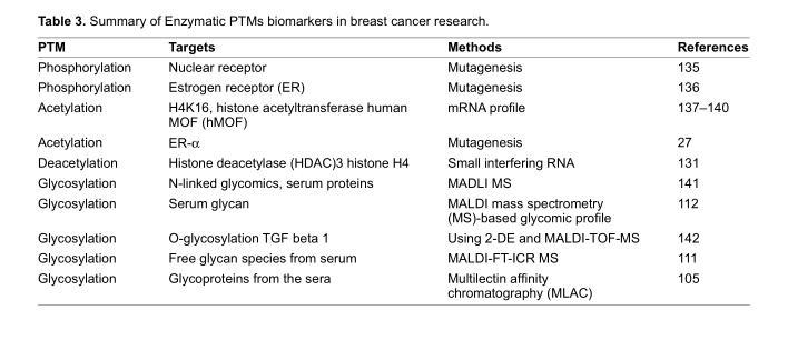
<table><thead><tr><td>PTM</td><td>Targets</td><td>Methods</td><td>References</td></tr></thead><tbody><tr><td>Phosphorylation</td><td>Nuclear receptor</td><td>Mutagenesis</td><td>135</td></tr><tr><td>Phosphorylation</td><td>estrogen receptor (eR)</td><td>Mutagenesis</td><td>136</td></tr><tr><td>Acetylation</td><td>H4K16, histone acetyltransferase human MOF (hMOF)</td><td>mRNA profile</td><td>137–140</td></tr><tr><td>Acetylation</td><td>eR-α</td><td>Mutagenesis</td><td>27</td></tr><tr><td>Deacetylation</td><td>Histone deacetylase (HDAC)3 histone H4</td><td>Small interfering RNA</td><td>131</td></tr><tr><td>Glycosylation</td><td>N-linked glycomics, serum proteins</td><td>MADLI MS</td><td>141</td></tr><tr><td>Glycosylation</td><td>Serum glycan</td><td>MALDI mass spectrometry (MS)-based glycomic profile</td><td>112</td></tr><tr><td>Glycosylation</td><td>O-glycosylation TGF beta 1</td><td>Using 2-De and MALDI-TOF-MS</td><td>142</td></tr><tr><td>Glycosylation</td><td>Free glycan species from serum</td><td>MALDI-FT-ICR MS</td><td>111</td></tr><tr><td>Glycosylation</td><td>Glycoproteins from the sera</td><td>Multilectin affinity chromatography (MLAC)</td><td>105</td></tr></tbody></table>